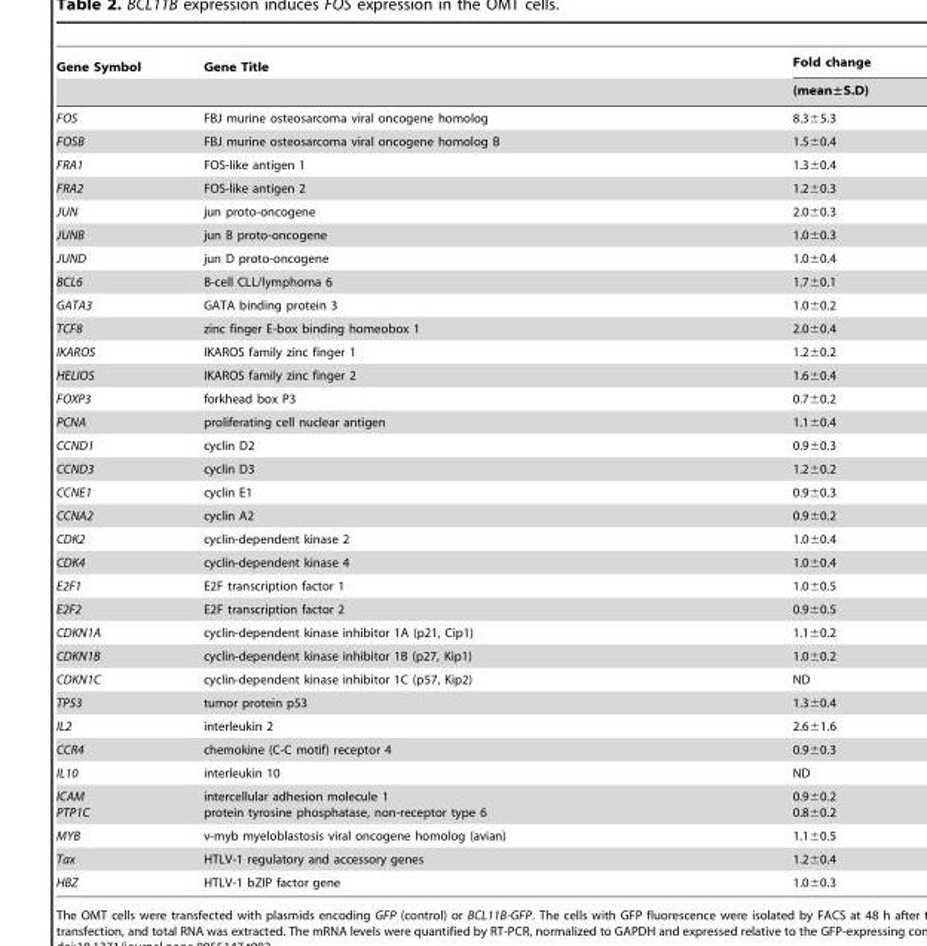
<table><thead><tr><td rowspan="2">Gene Symbol</td><td rowspan="2">Gene Title</td><td rowspan="2">Fold change (mean±S.D)</td></tr><tr></tr></thead><tbody><tr><td>FOS</td><td>FBJ murine osteosarcoma viral oncogene homolog</td><td>8.3±5.3</td></tr><tr><td>FOSB</td><td>FBJ murine osteosarcoma viral oncogene homolog B</td><td>1.5±0.4</td></tr><tr><td>FRA1</td><td>FOS-like antigen 1</td><td>1.3±0.4</td></tr><tr><td>FRA2</td><td>FOS-like antigen 2</td><td>1.2±0.3</td></tr><tr><td>JUN</td><td>jun proto-oncogene</td><td>2.0±0.3</td></tr><tr><td>JUNB</td><td>jun B proto-oncogene</td><td>1.0±0.3</td></tr><tr><td>JUND</td><td>jun D proto-oncogene</td><td>1.0±0.4</td></tr><tr><td>BCL6</td><td>B-cell CLL/lymphoma 6</td><td>1.7±0.1</td></tr><tr><td>GATA3</td><td>GATA binding protein 3</td><td>1.0±0.2</td></tr><tr><td>TCF8</td><td>zinc finger E-box binding homeobox 1</td><td>2.0±0.4</td></tr><tr><td>IKAROS</td><td>IKAROS family zinc finger 1</td><td>1.2±0.2</td></tr><tr><td>HELIOS</td><td>IKAROS family zinc finger 2</td><td>1.6±0.4</td></tr><tr><td>FOXP3</td><td>forkhead box P3</td><td>0.7±0.2</td></tr><tr><td>PCNA</td><td>proliferating cell nuclear antigen</td><td>1.1±0.4</td></tr><tr><td>CCND1</td><td>cyclin D2</td><td>0.9±0.3</td></tr><tr><td>CCND3</td><td>cyclin D3</td><td>1.2±0.2</td></tr><tr><td>CCNE1</td><td>cyclin E1</td><td>0.9±0.3</td></tr><tr><td>CCNA2</td><td>cyclin A2</td><td>0.9±0.2</td></tr><tr><td>CDK2</td><td>cyclin-dependent kinase 2</td><td>1.0±0.4</td></tr><tr><td>CDK4</td><td>cyclin-dependent kinase 4</td><td>1.0±0.4</td></tr><tr><td>E2F1</td><td>E2F transcription factor 1</td><td>1.0±0.5</td></tr><tr><td>E2F2</td><td>E2F transcription factor 2</td><td>0.9±0.5</td></tr><tr><td>CDKN1A</td><td>cyclin-dependent kinase inhibitor 1A (p21, Cip1)</td><td>1.1±0.2</td></tr><tr><td>CDKN1B</td><td>cyclin-dependent kinase inhibitor 1B (p27, Kip1)</td><td>1.0±0.2</td></tr><tr><td>CDKN1C</td><td>cyclin-dependent kinase inhibitor 1C (p57, Kip2)</td><td>ND</td></tr><tr><td>TP53</td><td>tumor protein p53</td><td>1.3±0.4</td></tr><tr><td>IL2</td><td>interleukin 2</td><td>2.6±1.6</td></tr><tr><td>CCR4</td><td>chemokine (C-C motif) receptor 4</td><td>0.9±0.3</td></tr><tr><td>IL10</td><td>interleukin 10</td><td>ND</td></tr><tr><td>ICAM PTP1C</td><td>intercellular adhesion molecule 1 protein tyrosine phosphatase, non-receptor type 6</td><td>0.9±0.2 0.8±0.2</td></tr><tr><td>MYB</td><td>v-myb myeloblastosis viral oncogene homolog (avian)</td><td>1.1±0.5</td></tr><tr><td>Tax</td><td>HTLV-1 regulatory and accessory genes</td><td>1.2±0.4</td></tr><tr><td>HBZ</td><td>HTLV-1 bZIP factor gene</td><td>1.0±0.3</td></tr></tbody></table>